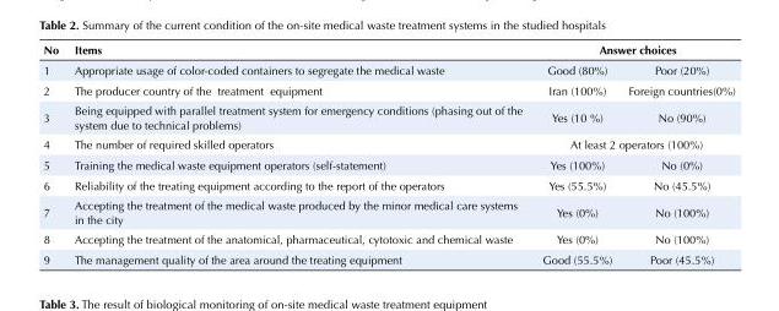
<table><tbody><tr><td>No</td><td>Items</td><td colspan="2">Answer choices</td></tr><tr><td>1</td><td>Appropriate usage of color-coded containers to segregate the medical waste</td><td>Good (80%)</td><td>Poor (20%)</td></tr><tr><td>2</td><td>The producer country of the treatment equipment</td><td>Iran (100%)</td><td>Foreign countries(0%)</td></tr><tr><td>3</td><td>Being equipped with parallel treatment system for emergency conditions (phasing out of the system due to technical problems)</td><td>Yes (10 %)</td><td>No (90%)</td></tr><tr><td>4</td><td>The number of required skilled operators</td><td colspan="2">At least 2 operators (100%)</td></tr><tr><td>5</td><td>Training the medical waste equipment operators (self-statement)</td><td>Yes (100%)</td><td>No (0%)</td></tr><tr><td>6</td><td>Reliability of the treating equipment according to the report of the operators</td><td>Yes (55.5%)</td><td>No (45.5%)</td></tr><tr><td>7</td><td>Accepting the treatment of the medical waste produced by the minor medical care systems in the city</td><td>Yes (0%)</td><td>No (100%)</td></tr><tr><td>8</td><td>Accepting the treatment of the anatomical, pharmaceutical, cytotoxic and chemical waste</td><td>Yes (0%)</td><td>No (100%)</td></tr><tr><td>9</td><td>The management quality of the area around the treating equipment</td><td>Good (55.5%)</td><td>Poor (45.5%)</td></tr></tbody></table>